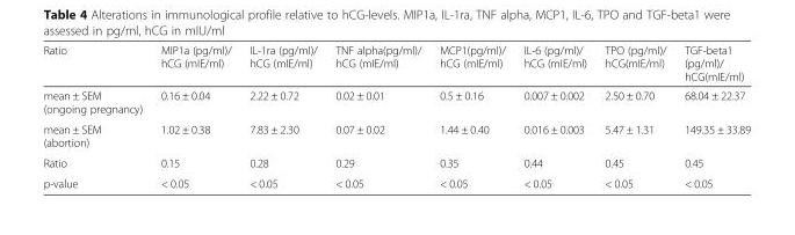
<table><thead><tr><td>Ratio</td><td>MIP1a (pg/ml)/ hCG (mIE/ml)</td><td>IL-1ra (pg/ml)/ hCG (mIE/ml)</td><td>TNF alpha(pg/ml)/ hCG (mIE/ml)</td><td>MCP1(pg/ml)/ hCG (mIE/ml)</td><td>IL-6 (pg/ml)/ hCG (mIE/ml)</td><td>TPO (pg/ml)/ hCG(mIE/ml)</td><td>TGF-beta1 (pg/ml)/ hCG(mIE/ml)</td></tr></thead><tbody><tr><td>mean ± SEM (ongoing pregnancy)</td><td>0.16 ± 0.04</td><td>2.22 ± 0.72</td><td>0.02 ± 0.01</td><td>0.5 ± 0.16</td><td>0.007 ± 0.002</td><td>2.50 ± 0.70</td><td>68.04 ± 22.37</td></tr><tr><td>mean ± SEM (abortion)</td><td>1.02 ± 0.38</td><td>7.83 ± 2.30</td><td>0.07 ± 0.02</td><td>1.44 ± 0.40</td><td>0.016 ± 0.003</td><td>5.47 ± 1.31</td><td>149.35 ± 33.89</td></tr><tr><td>Ratio</td><td>0.15</td><td>0.28</td><td>0.29</td><td>0.35</td><td>0.44</td><td>0.45</td><td>0.45</td></tr><tr><td>p-value</td><td>&lt; 0.05</td><td>&lt; 0.05</td><td>&lt; 0.05</td><td>&lt; 0.05</td><td>&lt; 0.05</td><td>&lt; 0.05</td><td>&lt; 0.05</td></tr></tbody></table>